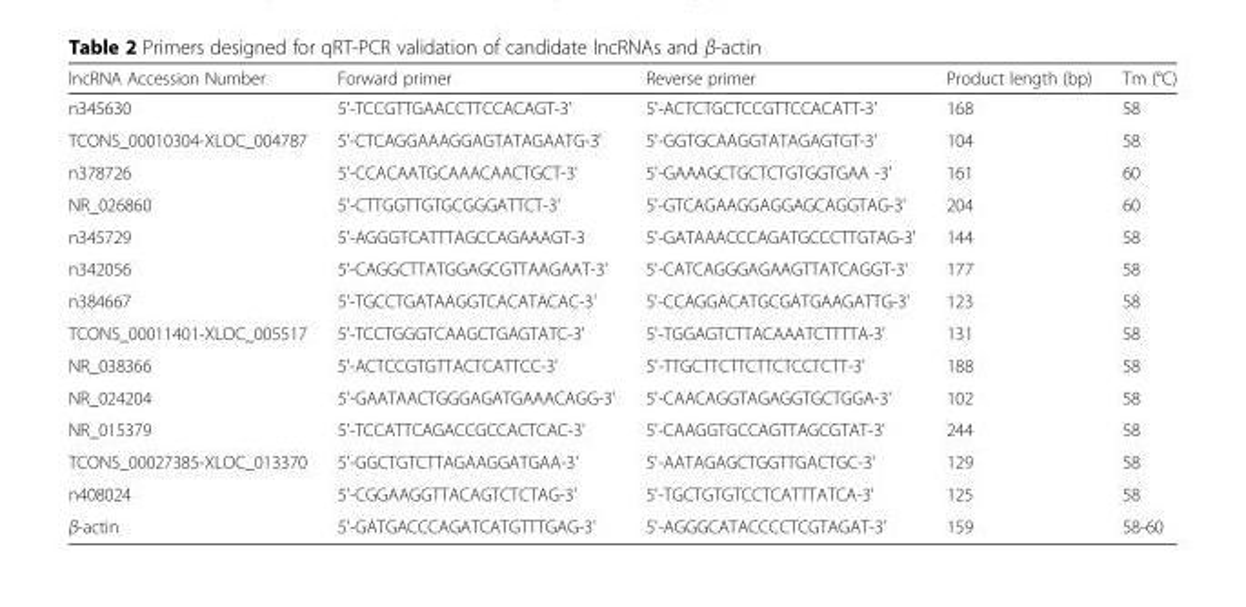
<table><thead><tr><td>lncRNA Accession Number</td><td>Forward primer</td><td>Reverse primer</td><td>Product length (bp)</td><td>Tm (°C)</td></tr></thead><tbody><tr><td>n345630</td><td>5&#x27;-TCCGTTGAACCTTCCACAGT-3&#x27;</td><td>5&#x27;-ACTCTGCTCCGTTCCACATT-3&#x27;</td><td>168</td><td>58</td></tr><tr><td>TCONS_00010304-XLOC_004787</td><td>5&#x27;-CTCAGGAAAGGAGTATAGAATG-3&#x27;</td><td>5&#x27;-GGTGCAAGGTATAGAGTGT-3&#x27;</td><td>104</td><td>58</td></tr><tr><td>n378726</td><td>5&#x27;-CCACAATGCAAACAACTGCT-3&#x27;</td><td>5&#x27;-GAAAGCTGCTCTGTGGTGAA -3&#x27;</td><td>161</td><td>60</td></tr><tr><td>NR_026860</td><td>5&#x27;-CTTGGTTGTGCGGGATTCT-3&#x27;</td><td>5&#x27;-GTCAGAAGGAGGAGCAGGTAG-3&#x27;</td><td>204</td><td>60</td></tr><tr><td>n345729</td><td>5&#x27;-AGGGTCATTTAGCCAGAAAGT-3</td><td>5&#x27;-GATAAACCCAGATGCCCTTGTAG-3&#x27;</td><td>144</td><td>58</td></tr><tr><td>n342056</td><td>5&#x27;-CAGGCTTATGGAGCGTTAAGAAT-3&#x27;</td><td>5&#x27;-CATCAGGGAGAAGTTATCAGGT-3&#x27;</td><td>177</td><td>58</td></tr><tr><td>n384667</td><td>5&#x27;-TGCCTGATAAGGTCACATACAC-3&#x27;</td><td>5&#x27;-CCAGGACATGCGATGAAGATTG-3&#x27;</td><td>123</td><td>58</td></tr><tr><td>TCONS_00011401-XLOC_005517</td><td>5&#x27;-TCCTGGGTCAAGCTGAGTATC-3&#x27;</td><td>5&#x27;-TGGAGTCTTACAAATCTTTTA-3&#x27;</td><td>131</td><td>58</td></tr><tr><td>NR_038366</td><td>5&#x27;-ACTCCGTGTTACTCATTCC-3&#x27;</td><td>5&#x27;-TTGCTTCTTCTTCTCCTCTT-3&#x27;</td><td>188</td><td>58</td></tr><tr><td>NR_024204</td><td>5&#x27;-GAATAACTGGGAGATGAAACAGG-3&#x27;</td><td>5&#x27;-CAACAGGTAGAGGTGCTGGA-3&#x27;</td><td>102</td><td>58</td></tr><tr><td>NR_015379</td><td>5&#x27;-TCCATTCAGACCGCCACTCAC-3&#x27;</td><td>5&#x27;-CAAGGTGCCAGTTAGCGTAT-3&#x27;</td><td>244</td><td>58</td></tr><tr><td>TCONS_00027385-XLOC_013370</td><td>5&#x27;-GGCTGTCTTAGAAGGATGAA-3&#x27;</td><td>5&#x27;-AATAGAGCTGGTTGACTGC-3&#x27;</td><td>129</td><td>58</td></tr><tr><td>n408024</td><td>5&#x27;-CGGAAGGTTACAGTCTCTAG-3&#x27;</td><td>5&#x27;-TGCTGTGTCCTCATTTATCA-3&#x27;</td><td>125</td><td>58</td></tr><tr><td>β-actin</td><td>5&#x27;-GATGACCCAGATCATGTTTGAG-3&#x27;</td><td>5&#x27;-AGGGCATACCCCTCGTAGAT-3&#x27;</td><td>159</td><td>58-60</td></tr></tbody></table>